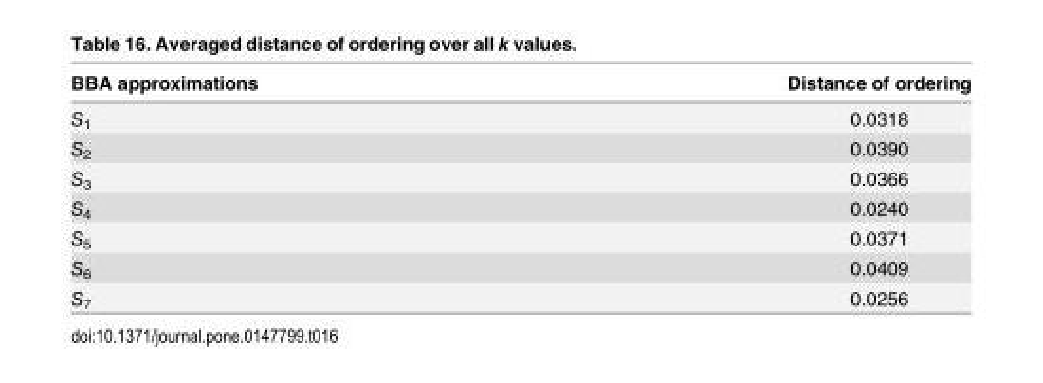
<table><thead><tr><td>BBA approximations</td><td>Distance of ordering</td></tr></thead><tbody><tr><td>S<sub>1</sub></td><td>0.0318</td></tr><tr><td>S<sub>2</sub></td><td>0.0390</td></tr><tr><td>S<sub>3</sub></td><td>0.0366</td></tr><tr><td>S<sub>4</sub></td><td>0.0240</td></tr><tr><td>S<sub>5</sub></td><td>0.0371</td></tr><tr><td>S<sub>6</sub></td><td>0.0409</td></tr><tr><td>S<sub>7</sub></td><td>0.0256</td></tr></tbody></table>